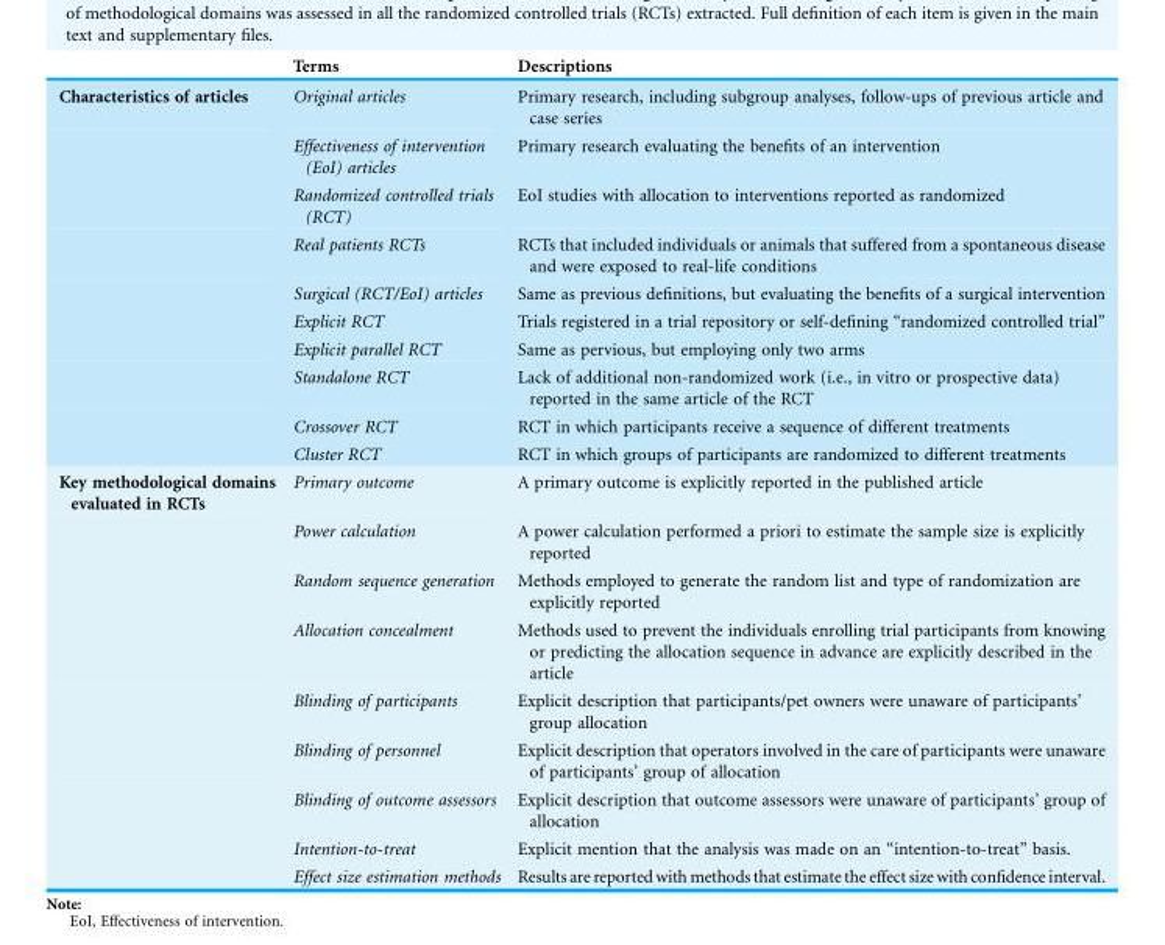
<table><thead><tr><td></td><td>Terms</td><td>Descriptions</td></tr></thead><tbody><tr><td rowspan="10">Characteristics of articles</td><td>Original articles</td><td>Primary research, including subgroup analyses, follow-ups of previous article and case series</td></tr><tr><td>Effectiveness of intervention (EoI) articles</td><td>Primary research evaluating the benefits of an intervention</td></tr><tr><td>Randomized controlled trials (RCT)</td><td>EoI studies with allocation to interventions reported as randomized</td></tr><tr><td>Real patients RCTs</td><td>RCTs that included individuals or animals that suffered from a spontaneous disease and were exposed to real-life conditions</td></tr><tr><td>Surgical (RCT/EoI) articles</td><td>Same as previous definitions, but evaluating the benefits of a surgical intervention</td></tr><tr><td>Explicit RCT</td><td>Trials registered in a trial repository or self-defining “randomized controlled trial”</td></tr><tr><td>Explicit parallel RCT</td><td>Same as pervious, but employing only two arms</td></tr><tr><td>Standalone RCT</td><td>Lack of additional non-randomized work (i.e., in vitro or prospective data) reported in the same article of the RCT</td></tr><tr><td>Crossover RCT</td><td>RCT in which participants receive a sequence of different treatments</td></tr><tr><td>Cluster RCT</td><td>RCT in which groups of participants are randomized to different treatments</td></tr><tr><td rowspan="9">Key methodological domains evaluated in RCTs</td><td>Primary outcome</td><td>A primary outcome is explicitly reported in the published article</td></tr><tr><td>Power calculation</td><td>A power calculation performed a priori to estimate the sample size is explicitly reported</td></tr><tr><td>Random sequence generation</td><td>Methods employed to generate the random list and type of randomization are explicitly reported</td></tr><tr><td>Allocation concealment</td><td>Methods used to prevent the individuals enrolling trial participants from knowing or predicting the allocation sequence in advance are explicitly described in the article</td></tr><tr><td>Blinding of participants</td><td>Explicit description that participants/pet owners were unaware of participants’ group allocation</td></tr><tr><td>Blinding of personnel</td><td>Explicit description that operators involved in the care of participants were unaware of participants’ group of allocation</td></tr><tr><td>Blinding of outcome assessors</td><td>Explicit description that outcome assessors were unaware of participants’ group of allocation</td></tr><tr><td>Intention-to-treat</td><td>Explicit mention that the analysis was made on an “intention-to-treat” basis.</td></tr><tr><td>Effect size estimation methods</td><td>Resultsare reported with methods that estimate the effect size with confidence interval.</td></tr></tbody></table>